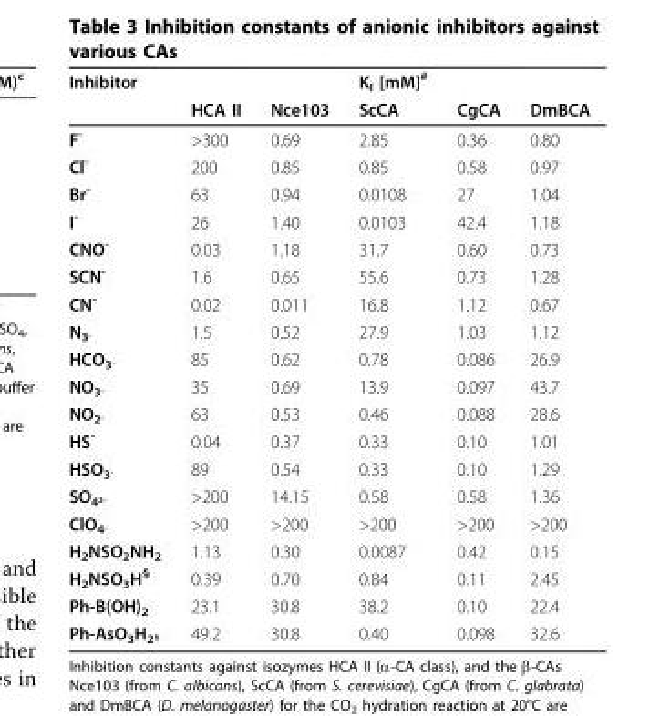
<table><thead><tr><td rowspan="2">Inhibitor</td><td rowspan="2">HCA II</td><td rowspan="2">Nce103</td><td rowspan="2">K<sub>I</sub> [mM]<sup>#</sup> ScCA</td><td rowspan="2">CgCA</td><td rowspan="2">DmBCA</td></tr><tr></tr></thead><tbody><tr><td>F<sup>-</sup></td><td>&gt;300</td><td>0.69</td><td>2.85</td><td>0.36</td><td>0.80</td></tr><tr><td>Cl<sup>-</sup></td><td>200</td><td>0.85</td><td>0.85</td><td>0.58</td><td>0.97</td></tr><tr><td>Br<sup>-</sup></td><td>63</td><td>0.94</td><td>0.0108</td><td>27</td><td>1.04</td></tr><tr><td>I<sup>-</sup></td><td>26</td><td>1.40</td><td>0.0103</td><td>42.4</td><td>1.18</td></tr><tr><td>CNO<sup>-</sup></td><td>0.03</td><td>1.18</td><td>31.7</td><td>0.60</td><td>0.73</td></tr><tr><td>SCN<sup>-</sup></td><td>1.6</td><td>0.65</td><td>55.6</td><td>0.73</td><td>1.28</td></tr><tr><td>CN<sup>-</sup></td><td>0.02</td><td>0.011</td><td>16.8</td><td>1.12</td><td>0.67</td></tr><tr><td>N<sub>3</sub><sup><sub>-</sub></sup></td><td>1.5</td><td>0.52</td><td>27.9</td><td>1.03</td><td>1.12</td></tr><tr><td>HCO<sub>3</sub><sup><sub>-</sub></sup></td><td>85</td><td>0.62</td><td>0.78</td><td>0.086</td><td>26.9</td></tr><tr><td>NO<sub>3</sub><sup><sub>-</sub></sup></td><td>35</td><td>0.69</td><td>13.9</td><td>0.097</td><td>43.7</td></tr><tr><td>NO<sub>2</sub><sup><sub>-</sub></sup></td><td>63</td><td>0.53</td><td>0.46</td><td>0.088</td><td>28.6</td></tr><tr><td>HS<sup>-</sup></td><td>0.04</td><td>0.37</td><td>0.33</td><td>0.10</td><td>1.01</td></tr><tr><td>HSO<sub>3</sub><sup><sub>-</sub></sup></td><td>89</td><td>0.54</td><td>0.33</td><td>0.10</td><td>1.29</td></tr><tr><td>SO<sub>4</sub><sup><sub>2-</sub></sup></td><td>&gt;200</td><td>14.15</td><td>0.58</td><td>0.58</td><td>1.36</td></tr><tr><td>ClO<sub>4</sub><sup><sub>-</sub></sup></td><td>&gt;200</td><td>&gt;200</td><td>&gt;200</td><td>&gt;200</td><td>&gt;200</td></tr><tr><td>H<sub>2</sub>NSO<sub>2</sub>NH<sub>2</sub></td><td>1.13</td><td>0.30</td><td>0.0087</td><td>0.42</td><td>0.15</td></tr><tr><td>H<sub>2</sub>NSO<sub>3</sub>H<sup>§</sup></td><td>0.39</td><td>0.70</td><td>0.84</td><td>0.11</td><td>2.45</td></tr><tr><td>Ph-B(OH)<sub>2</sub></td><td>23.1</td><td>30.8</td><td>38.2</td><td>0.10</td><td>22.4</td></tr><tr><td>Ph-AsO<sub>3</sub>H<sub>2</sub><sup><sub>§</sub></sup></td><td>49.2</td><td>30.8</td><td>0.40</td><td>0.098</td><td>32.6</td></tr></tbody></table>